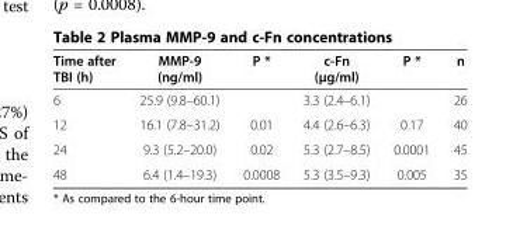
<table><thead><tr><td>Time after TBI (h)</td><td>MMP-9 (ng/ml)</td><td>P *</td><td>c-Fn (μg/ml)</td><td>P *</td><td>n</td></tr></thead><tbody><tr><td>6</td><td>25.9 (9.8–60.1)</td><td></td><td>3.3 (2.4–6.1)</td><td></td><td>26</td></tr><tr><td>12</td><td>16.1 (7.8–31.2)</td><td>0.01</td><td>4.4 (2.6–6.3)</td><td>0.17</td><td>40</td></tr><tr><td>24</td><td>9.3 (5.2–20.0)</td><td>0.02</td><td>5.3 (2.7–8.5)</td><td>0.0001</td><td>45</td></tr><tr><td>48</td><td>6.4 (1.4–19.3)</td><td>0.0008</td><td>5.3 (3.5–9.3)</td><td>0.005</td><td>35</td></tr></tbody></table>